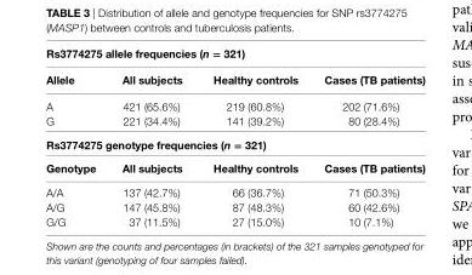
<table><thead><tr><td colspan="4">rs3774275 allele frequencies (n = 321)</td></tr><tr><td>allele</td><td>all subjects</td><td>healthy controls</td><td>cases (Tb patients)</td></tr></thead><tbody><tr><td>A</td><td>421 (65.6%)</td><td>219 (60.8%)</td><td>202 (71.6%)</td></tr><tr><td>G</td><td>221 (34.4%)</td><td>141 (39.2%)</td><td>80 (28.4%)</td></tr><tr><td colspan="4">rs3774275 genotype frequencies (n = 321)</td></tr><tr><td>genotype</td><td>all subjects</td><td>healthy controls</td><td>cases (Tb patients)</td></tr><tr><td>A/A</td><td>137 (42.7%)</td><td>66 (36.7%)</td><td>71 (50.3%)</td></tr><tr><td>A/G</td><td>147 (45.8%)</td><td>87 (48.3%)</td><td>60 (42.6%)</td></tr><tr><td>G/G</td><td>37 (11.5%)</td><td>27 (15.0%)</td><td>10 (7.1%)</td></tr></tbody></table>